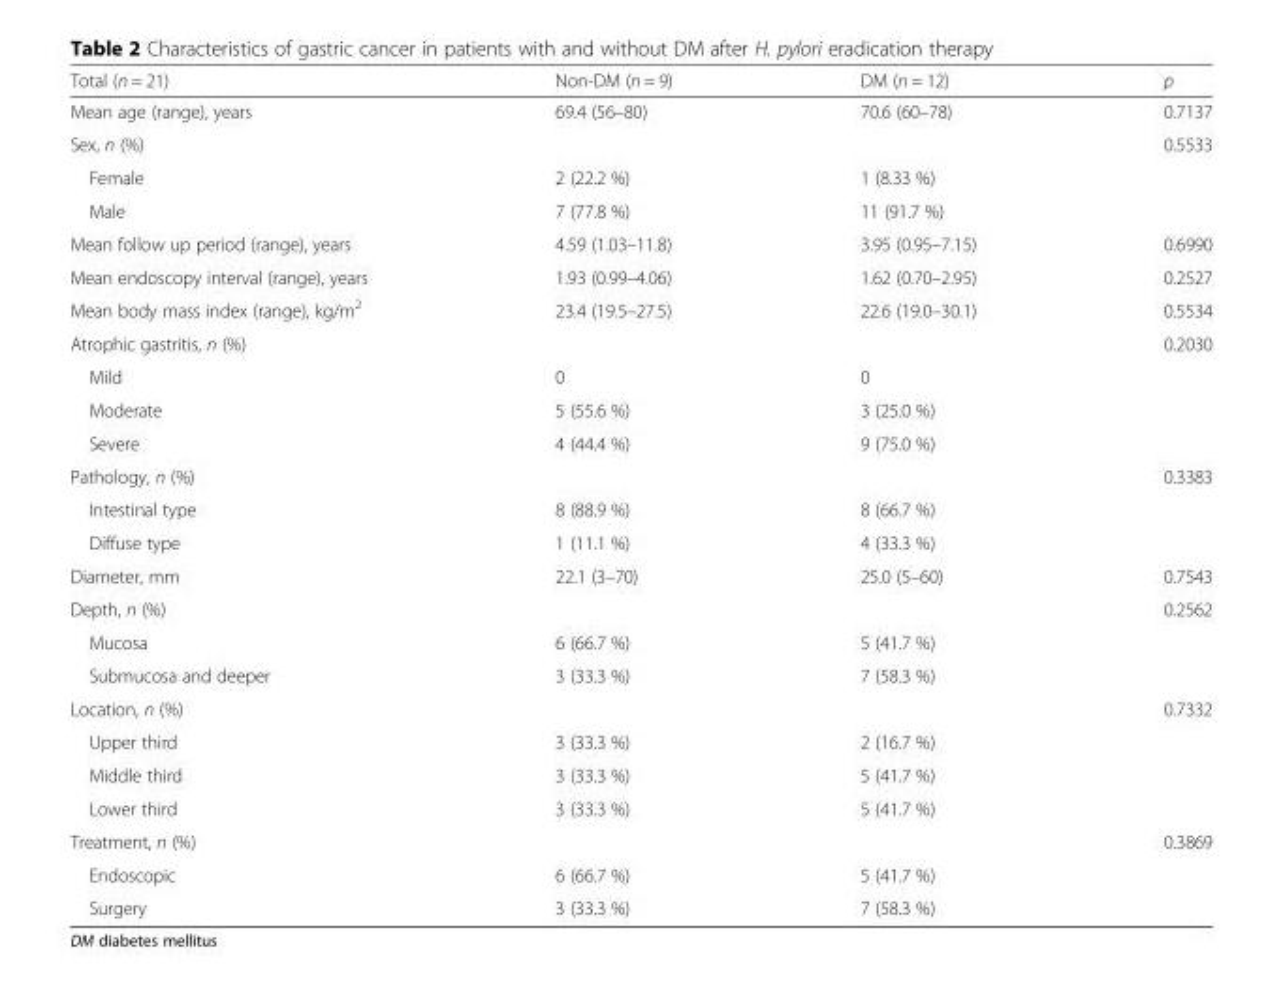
<table><thead><tr><td>Total (n = 21)</td><td>Non-DM (n = 9)</td><td>DM (n = 12)</td><td>p</td></tr></thead><tbody><tr><td>Mean age (range), years</td><td>69.4 (56–80)</td><td>70.6 (60–78)</td><td>0.7137</td></tr><tr><td>Sex, n (%)</td><td></td><td></td><td>0.5533</td></tr><tr><td>Female</td><td>2 (22.2 %)</td><td>1 (8.33 %)</td><td></td></tr><tr><td>Male</td><td>7 (77.8 %)</td><td>11 (91.7 %)</td><td></td></tr><tr><td>Mean follow up period (range), years</td><td>4.59 (1.03–11.8)</td><td>3.95 (0.95–7.15)</td><td>0.6990</td></tr><tr><td>Mean endoscopy interval (range), years</td><td>1.93 (0.99–4.06)</td><td>1.62 (0.70–2.95)</td><td>0.2527</td></tr><tr><td>Mean body mass index (range), kg/m<sup>2</sup></td><td>23.4 (19.5–27.5)</td><td>22.6 (19.0–30.1)</td><td>0.5534</td></tr><tr><td>Atrophic gastritis, n (%)</td><td></td><td></td><td>0.2030</td></tr><tr><td>Mild</td><td>0</td><td>0</td><td></td></tr><tr><td>Moderate</td><td>5 (55.6 %)</td><td>3 (25.0 %)</td><td></td></tr><tr><td>Severe</td><td>4 (44.4 %)</td><td>9 (75.0 %)</td><td></td></tr><tr><td>Pathology, n (%)</td><td></td><td></td><td>0.3383</td></tr><tr><td>Intestinal type</td><td>8 (88.9 %)</td><td>8 (66.7 %)</td><td></td></tr><tr><td>Diffuse type</td><td>1 (11.1 %)</td><td>4 (33.3 %)</td><td></td></tr><tr><td>Diameter, mm</td><td>22.1 (3–70)</td><td>25.0 (5–60)</td><td>0.7543</td></tr><tr><td>Depth, n (%)</td><td></td><td></td><td>0.2562</td></tr><tr><td>Mucosa</td><td>6 (66.7 %)</td><td>5 (41.7 %)</td><td></td></tr><tr><td>Submucosa and deeper</td><td>3 (33.3 %)</td><td>7 (58.3 %)</td><td></td></tr><tr><td>Location, n (%)</td><td></td><td></td><td>0.7332</td></tr><tr><td>Upper third</td><td>3 (33.3 %)</td><td>2 (16.7 %)</td><td></td></tr><tr><td>Middle third</td><td>3 (33.3 %)</td><td>5 (41.7 %)</td><td></td></tr><tr><td>Lower third</td><td>3 (33.3 %)</td><td>5 (41.7 %)</td><td></td></tr><tr><td>Treatment, n (%)</td><td></td><td></td><td>0.3869</td></tr><tr><td>Endoscopic</td><td>6 (66.7 %)</td><td>5 (41.7 %)</td><td></td></tr><tr><td>Surgery</td><td>3 (33.3 %)</td><td>7 (58.3 %)</td><td></td></tr></tbody></table>